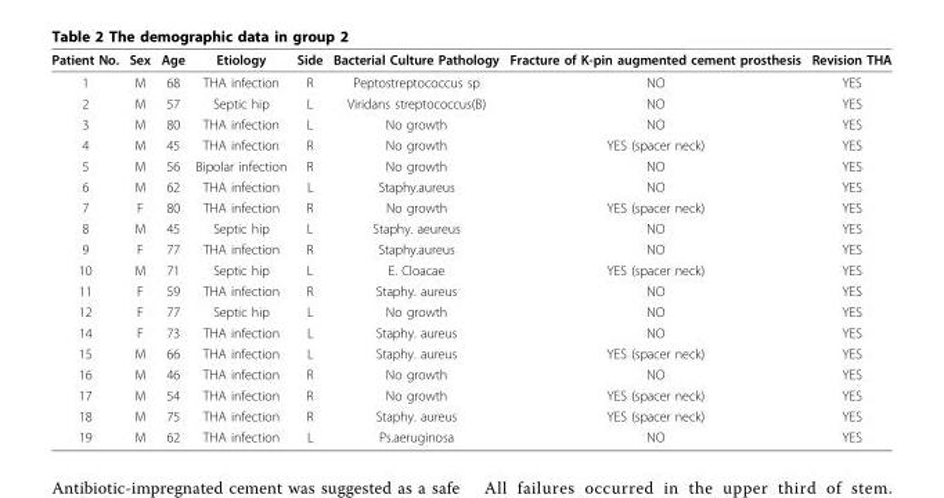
<table><thead><tr><td>Patient No.</td><td>Sex</td><td>Age</td><td>Etiology</td><td>Side</td><td>Bacterial Culture Pathology</td><td>Fracture of K-pin augmented cement prosthesis</td><td>Revision THA</td></tr></thead><tbody><tr><td>1</td><td>M</td><td>68</td><td>THA infection</td><td>R</td><td>Peptostreptococcus sp</td><td>NO</td><td>YES</td></tr><tr><td>2</td><td>M</td><td>57</td><td>Septic hip</td><td>L</td><td>Viridans streptococcus(B)</td><td>NO</td><td>YES</td></tr><tr><td>3</td><td>M</td><td>80</td><td>THA infection</td><td>L</td><td>No growth</td><td>NO</td><td>YES</td></tr><tr><td>4</td><td>M</td><td>45</td><td>THA infection</td><td>R</td><td>No growth</td><td>YES (spacer neck)</td><td>YES</td></tr><tr><td>5</td><td>M</td><td>56</td><td>Bipolar infection</td><td>R</td><td>No growth</td><td>NO</td><td>YES</td></tr><tr><td>6</td><td>M</td><td>62</td><td>THA infection</td><td>L</td><td>Staphy.aureus</td><td>NO</td><td>YES</td></tr><tr><td>7</td><td>F</td><td>80</td><td>THA infection</td><td>R</td><td>No growth</td><td>YES (spacer neck)</td><td>YES</td></tr><tr><td>8</td><td>M</td><td>45</td><td>Septic hip</td><td>L</td><td>Staphy. aeureus</td><td>NO</td><td>YES</td></tr><tr><td>9</td><td>F</td><td>77</td><td>THA infection</td><td>R</td><td>Staphy.aureus</td><td>NO</td><td>YES</td></tr><tr><td>10</td><td>M</td><td>71</td><td>Septic hip</td><td>L</td><td>E. Cloacae</td><td>YES (spacer neck)</td><td>YES</td></tr><tr><td>11</td><td>F</td><td>59</td><td>THA infection</td><td>R</td><td>Staphy. aureus</td><td>NO</td><td>YES</td></tr><tr><td>12</td><td>F</td><td>77</td><td>Septic hip</td><td>L</td><td>No growth</td><td>NO</td><td>YES</td></tr><tr><td>14</td><td>F</td><td>73</td><td>THA infection</td><td>L</td><td>Staphy. aureus</td><td>NO</td><td>YES</td></tr><tr><td>15</td><td>M</td><td>66</td><td>THA infection</td><td>L</td><td>Staphy. aureus</td><td>YES (spacer neck)</td><td>YES</td></tr><tr><td>16</td><td>M</td><td>46</td><td>THA infection</td><td>R</td><td>No growth</td><td>NO</td><td>YES</td></tr><tr><td>17</td><td>M</td><td>54</td><td>THA infection</td><td>R</td><td>No growth</td><td>YES (spacer neck)</td><td>YES</td></tr><tr><td>18</td><td>M</td><td>75</td><td>THA infection</td><td>R</td><td>Staphy. aureus</td><td>YES (spacer neck)</td><td>YES</td></tr><tr><td>19</td><td>M</td><td>62</td><td>THA infection</td><td>L</td><td>Ps.aeruginosa</td><td>NO</td><td>YES</td></tr></tbody></table>